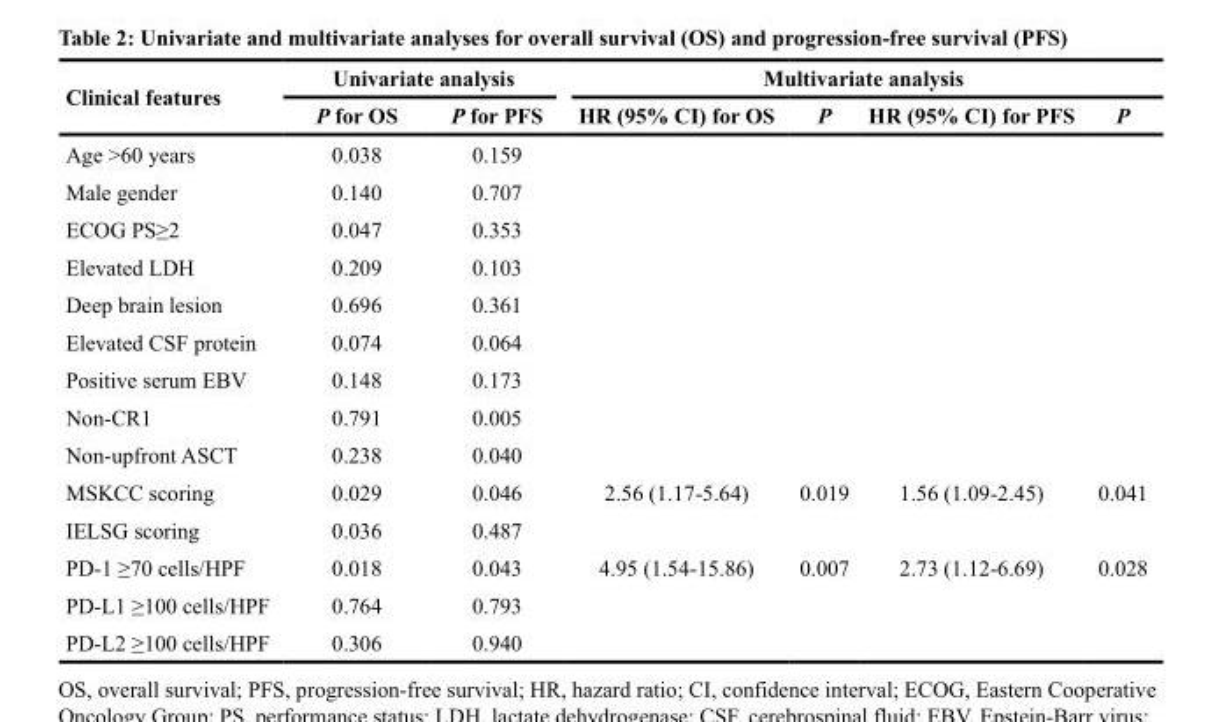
<table><thead><tr><td rowspan="2">Clinical features</td><td colspan="2">Univariate analysis</td><td colspan="4">Multivariate analysis</td></tr><tr><td>P for OS</td><td>P for PFS</td><td>HR (95% CI) for OS</td><td>P</td><td>HR (95% CI) for PFS</td><td>P</td></tr></thead><tbody><tr><td>Age &gt;60 years</td><td>0.038</td><td>0.159</td><td></td><td></td><td></td><td></td></tr><tr><td>Male gender</td><td>0.140</td><td>0.707</td><td></td><td></td><td></td><td></td></tr><tr><td>ECOG PS≥2</td><td>0.047</td><td>0.353</td><td></td><td></td><td></td><td></td></tr><tr><td>Elevated LDH</td><td>0.209</td><td>0.103</td><td></td><td></td><td></td><td></td></tr><tr><td>Deep brain lesion</td><td>0.696</td><td>0.361</td><td></td><td></td><td></td><td></td></tr><tr><td>Elevated CSF protein</td><td>0.074</td><td>0.064</td><td></td><td></td><td></td><td></td></tr><tr><td>Positive serum EBV</td><td>0.148</td><td>0.173</td><td></td><td></td><td></td><td></td></tr><tr><td>Non-CR1</td><td>0.791</td><td>0.005</td><td></td><td></td><td></td><td></td></tr><tr><td>Non-upfront ASCT</td><td>0.238</td><td>0.040</td><td></td><td></td><td></td><td></td></tr><tr><td>MSKCC scoring</td><td>0.029</td><td>0.046</td><td>2.56 (1.17-5.64)</td><td>0.019</td><td>1.56 (1.09-2.45)</td><td>0.041</td></tr><tr><td>IELSG scoring</td><td>0.036</td><td>0.487</td><td></td><td></td><td></td><td></td></tr><tr><td>PD-1 ≥70 cells/HPF</td><td>0.018</td><td>0.043</td><td>4.95 (1.54-15.86)</td><td>0.007</td><td>2.73 (1.12-6.69)</td><td>0.028</td></tr><tr><td>PD-L1 ≥100 cells/HPF</td><td>0.764</td><td>0.793</td><td></td><td></td><td></td><td></td></tr><tr><td>PD-L2 ≥100 cells/HPF</td><td>0.306</td><td>0.940</td><td></td><td></td><td></td><td></td></tr></tbody></table>